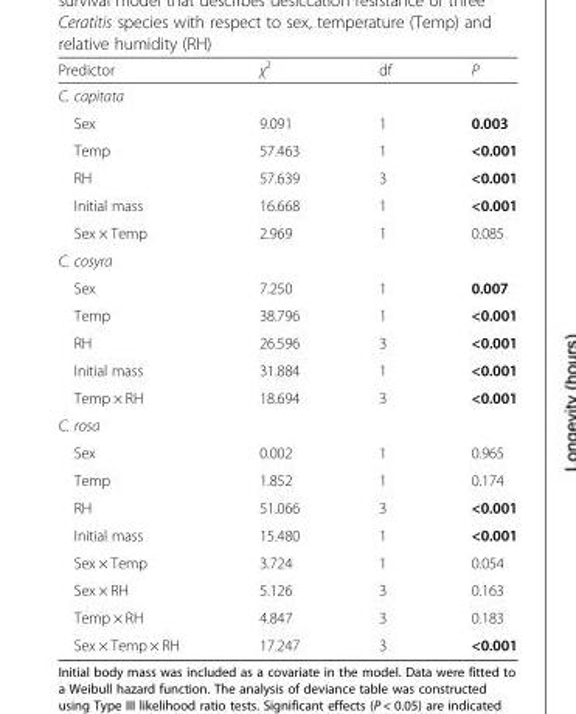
<table><thead><tr><td>Predictor</td><td>χ<sup>2</sup></td><td>df</td><td>P</td></tr></thead><tbody><tr><td colspan="4">C. capitata</td></tr><tr><td>Sex</td><td>9.091</td><td>1</td><td>0.003</td></tr><tr><td>Temp</td><td>57.463</td><td>1</td><td>&lt;0.001</td></tr><tr><td>RH</td><td>57.639</td><td>3</td><td>&lt;0.001</td></tr><tr><td>Initial mass</td><td>16.668</td><td>1</td><td>&lt;0.001</td></tr><tr><td>Sex × Temp</td><td>2.969</td><td>1</td><td>0.085</td></tr><tr><td colspan="4">C. cosyra</td></tr><tr><td>Sex</td><td>7.250</td><td>1</td><td>0.007</td></tr><tr><td>Temp</td><td>38.796</td><td>1</td><td>&lt;0.001</td></tr><tr><td>RH</td><td>26.596</td><td>3</td><td>&lt;0.001</td></tr><tr><td>Initial mass</td><td>31.884</td><td>1</td><td>&lt;0.001</td></tr><tr><td>Temp × RH</td><td>18.694</td><td>3</td><td>&lt;0.001</td></tr><tr><td colspan="4">C. rosa</td></tr><tr><td>Sex</td><td>0.002</td><td>1</td><td>0.965</td></tr><tr><td>Temp</td><td>1.852</td><td>1</td><td>0.174</td></tr><tr><td>RH</td><td>51.066</td><td>3</td><td>&lt;0.001</td></tr><tr><td>Initial mass</td><td>15.480</td><td>1</td><td>&lt;0.001</td></tr><tr><td>Sex × Temp</td><td>3.724</td><td>1</td><td>0.054</td></tr><tr><td>Sex × RH</td><td>5.126</td><td>3</td><td>0.163</td></tr><tr><td>Temp × RH</td><td>4.847</td><td>3</td><td>0.183</td></tr><tr><td>Sex × Temp × RH</td><td>17.247</td><td>3</td><td>&lt;0.001</td></tr></tbody></table>